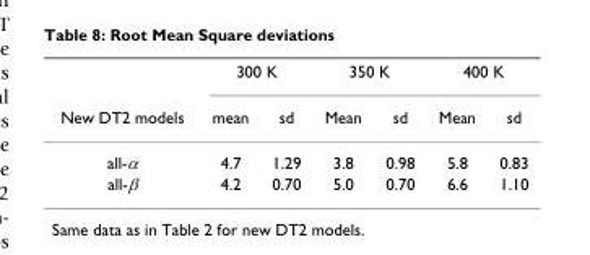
<table><thead><tr><td rowspan="2">New DT2 models</td><td colspan="2">300 K</td><td colspan="2">350 K</td><td colspan="2">400 K</td></tr><tr><td>mean</td><td>sd</td><td>Mean</td><td>sd</td><td>Mean</td><td>sd</td></tr></thead><tbody><tr><td>all-α</td><td>4.7</td><td>1.29</td><td>3.8</td><td>0.98</td><td>5.8</td><td>0.83</td></tr><tr><td>all-β</td><td>4.2</td><td>0.70</td><td>5.0</td><td>0.70</td><td>6.6</td><td>1.10</td></tr></tbody></table>